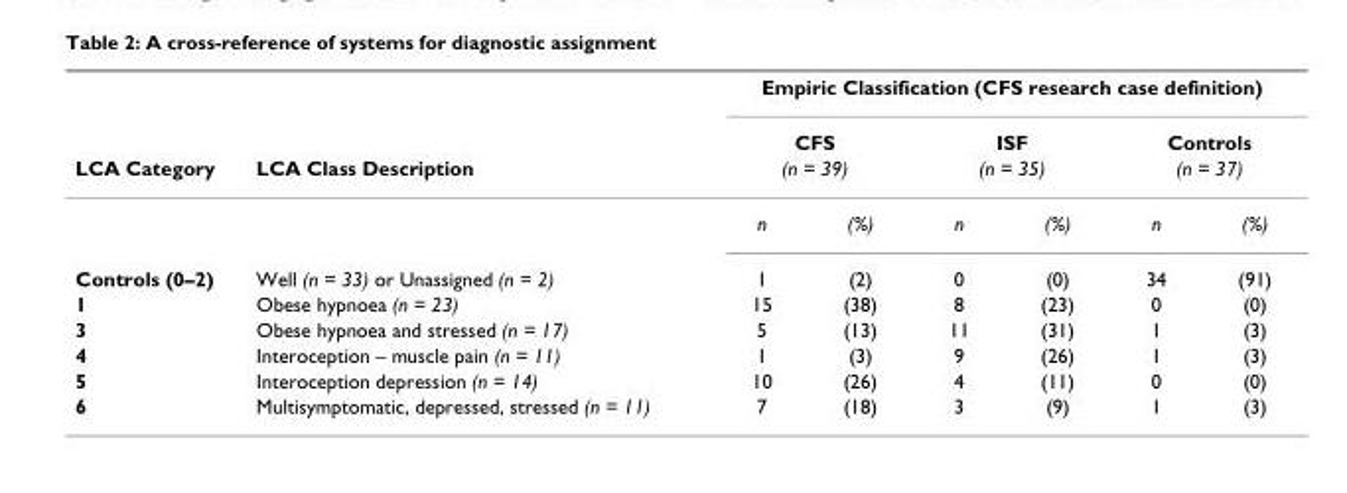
<table><thead><tr><td rowspan="4">LCA Category</td><td rowspan="4">LCA Class Description</td><td colspan="6">Empiric Classification (CFS research case definition)</td></tr><tr><td rowspan="2" colspan="2">CFS (n = 39)</td><td rowspan="2" colspan="2">ISF (n = 35)</td><td rowspan="2" colspan="2">Controls (n = 37)</td></tr><tr></tr><tr><td>n</td><td>(%)</td><td>n</td><td>(%)</td><td>n</td><td>(%)</td></tr></thead><tbody><tr><td>Controls (0–2)</td><td>Well (n = 33) or Unassigned (n = 2)</td><td>1</td><td>(2)</td><td>0</td><td>(0)</td><td>34</td><td>(91)</td></tr><tr><td>1</td><td>Obese hypnoea (n = 23)</td><td>15</td><td>(38)</td><td>8</td><td>(23)</td><td>0</td><td>(0)</td></tr><tr><td>3</td><td>Obese hypnoea and stressed (n = 17)</td><td>5</td><td>(13)</td><td>11</td><td>(31)</td><td>1</td><td>(3)</td></tr><tr><td>4</td><td>Interoception – muscle pain (n = 11)</td><td>1</td><td>(3)</td><td>9</td><td>(26)</td><td>1</td><td>(3)</td></tr><tr><td>5</td><td>Interoception depression (n = 14)</td><td>10</td><td>(26)</td><td>4</td><td>(11)</td><td>0</td><td>(0)</td></tr><tr><td>6</td><td>Multisymptomatic, depressed, stressed (n = 11)</td><td>7</td><td>(18)</td><td>3</td><td>(9)</td><td>1</td><td>(3)</td></tr></tbody></table>